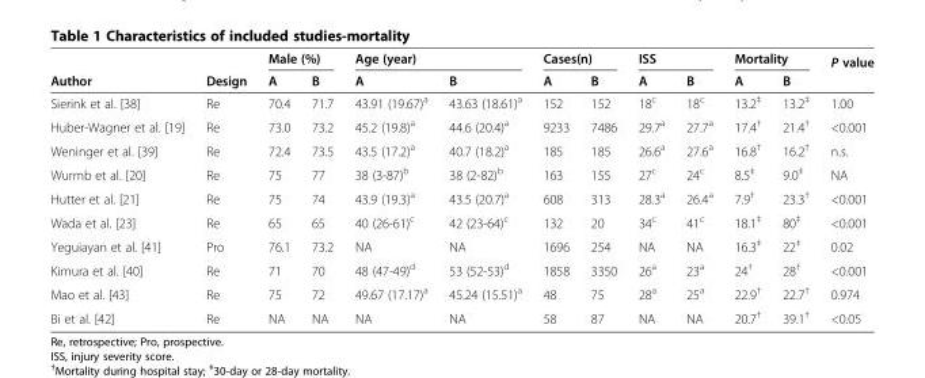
<table><thead><tr><td rowspan="2">Author</td><td rowspan="2">Design</td><td colspan="2">Male (%)</td><td colspan="2">Age (year)</td><td colspan="2">Cases(n)</td><td colspan="2">ISS</td><td colspan="2">Mortality</td><td rowspan="2">P value</td></tr><tr><td>A</td><td>B</td><td>A</td><td>B</td><td>A</td><td>B</td><td>A</td><td>B</td><td>A</td><td>B</td></tr></thead><tbody><tr><td>Sierink et al. [38]</td><td>Re</td><td>70.4</td><td>71.7</td><td>43.91 (19.67)<sup>a</sup></td><td>43.63 (18.61)<sup>a</sup></td><td>152</td><td>152</td><td>18<sup>c</sup></td><td>18<sup>c</sup></td><td>13.2<sup>‡</sup></td><td>13.2<sup>‡</sup></td><td>1.00</td></tr><tr><td>Huber-Wagner et al. [19]</td><td>Re</td><td>73.0</td><td>73.2</td><td>45.2 (19.8)<sup>a</sup></td><td>44.6 (20.4)<sup>a</sup></td><td>9233</td><td>7486</td><td>29.7<sup>a</sup></td><td>27.7<sup>a</sup></td><td>17.4<sup>†</sup></td><td>21.4<sup>†</sup></td><td>&lt;0.001</td></tr><tr><td>Weninger et al. [39]</td><td>Re</td><td>72.4</td><td>73.5</td><td>43.5 (17.2)<sup>a</sup></td><td>40.7 (18.2)<sup>a</sup></td><td>185</td><td>185</td><td>26.6<sup>a</sup></td><td>27.6<sup>a</sup></td><td>16.8<sup>†</sup></td><td>16.2<sup>†</sup></td><td>n.s.</td></tr><tr><td>Wurmb et al. [20]</td><td>Re</td><td>75</td><td>77</td><td>38 (3-87)<sup>b</sup></td><td>38 (2-82)<sup>b</sup></td><td>163</td><td>155</td><td>27<sup>c</sup></td><td>24<sup>c</sup></td><td>8.5<sup>‡</sup></td><td>9.0<sup>‡</sup></td><td>NA</td></tr><tr><td>Hutter et al. [21]</td><td>Re</td><td>75</td><td>74</td><td>43.9 (19.3)<sup>a</sup></td><td>43.5 (20.7)<sup>a</sup></td><td>608</td><td>313</td><td>28.3<sup>a</sup></td><td>26.4<sup>a</sup></td><td>7.9<sup>†</sup></td><td>23.3<sup>†</sup></td><td>&lt;0.001</td></tr><tr><td>Wada et al. [23]</td><td>Re</td><td>65</td><td>65</td><td>40 (26-61)<sup>c</sup></td><td>42 (23-64)<sup>c</sup></td><td>132</td><td>20</td><td>34<sup>c</sup></td><td>41<sup>c</sup></td><td>18.1<sup>‡</sup></td><td>80<sup>‡</sup></td><td>&lt;0.001</td></tr><tr><td>Yeguiayan et al. [41]</td><td>Pro</td><td>76.1</td><td>73.2</td><td>NA</td><td>NA</td><td>1696</td><td>254</td><td>NA</td><td>NA</td><td>16.3<sup>‡</sup></td><td>22<sup>‡</sup></td><td>0.02</td></tr><tr><td>Kimura et al. [40]</td><td>Re</td><td>71</td><td>70</td><td>48 (47-49)<sup>d</sup></td><td>53 (52-53)<sup>d</sup></td><td>1858</td><td>3350</td><td>26<sup>a</sup></td><td>23<sup>a</sup></td><td>24<sup>†</sup></td><td>28<sup>†</sup></td><td>&lt;0.001</td></tr><tr><td>Mao et al. [43]</td><td>Re</td><td>75</td><td>72</td><td>49.67 (17.17)<sup>a</sup></td><td>45.24 (15.51)<sup>a</sup></td><td>48</td><td>75</td><td>28<sup>a</sup></td><td>25<sup>a</sup></td><td>22.9<sup>†</sup></td><td>22.7<sup>†</sup></td><td>0.974</td></tr><tr><td>Bi et al. [42]</td><td>Re</td><td>NA</td><td>NA</td><td>NA</td><td>NA</td><td>58</td><td>87</td><td>NA</td><td>NA</td><td>20.7<sup>†</sup></td><td>39.1<sup>†</sup></td><td>&lt;0.05</td></tr></tbody></table>